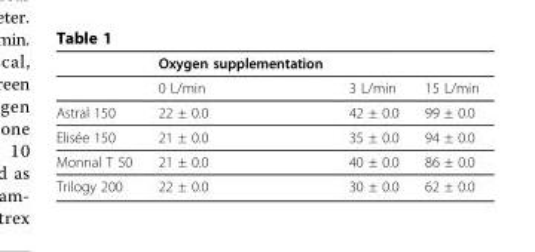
<table><thead><tr><td></td><td>Oxygen supplementation</td><td></td><td></td></tr></thead><tbody><tr><td></td><td>0 L/min</td><td>3 L/min</td><td>15 L/min</td></tr><tr><td>Astral 150</td><td>22 ± 0.0</td><td>42 ± 0.0</td><td>99 ± 0.0</td></tr><tr><td>Elisée 150</td><td>21 ± 0.0</td><td>35 ± 0.0</td><td>94 ± 0.0</td></tr><tr><td>Monnal T 50</td><td>21 ± 0.0</td><td>40 ± 0.0</td><td>86 ± 0.0</td></tr><tr><td>Trilogy 200</td><td>22 ± 0.0</td><td>30 ± 0.0</td><td>62 ± 0.0</td></tr></tbody></table>